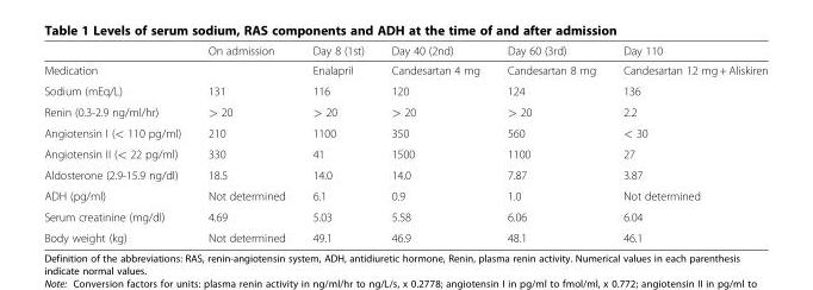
<table><thead><tr><td></td><td>On admission</td><td>Day 8 (1st)</td><td>Day 40 (2nd)</td><td>Day 60 (3rd)</td><td>Day 110</td></tr></thead><tbody><tr><td>Medication</td><td></td><td>Enalapril</td><td>Candesartan 4 mg</td><td>Candesartan 8 mg</td><td>Candesartan 12 mg + Aliskiren</td></tr><tr><td>Sodium (mEq/L)</td><td>131</td><td>116</td><td>120</td><td>124</td><td>136</td></tr><tr><td>Renin (0.3-2.9 ng/ml/hr)</td><td>&gt; 20</td><td>&gt; 20</td><td>&gt; 20</td><td>&gt; 20</td><td>2.2</td></tr><tr><td>Angiotensin I (&lt; 110 pg/ml)</td><td>210</td><td>1100</td><td>350</td><td>560</td><td>&lt; 30</td></tr><tr><td>Angiotensin II (&lt; 22 pg/ml)</td><td>330</td><td>41</td><td>1500</td><td>1100</td><td>27</td></tr><tr><td>Aldosterone (2.9-15.9 ng/dl)</td><td>18.5</td><td>14.0</td><td>14.0</td><td>7.87</td><td>3.87</td></tr><tr><td>ADH (pg/ml)</td><td>Not determined</td><td>6.1</td><td>0.9</td><td>1.0</td><td>Not determined</td></tr><tr><td>Serum creatinine (mg/dl)</td><td>4.69</td><td>5.03</td><td>5.58</td><td>6.06</td><td>6.04</td></tr><tr><td>Body weight (kg)</td><td>Not determined</td><td>49.1</td><td>46.9</td><td>48.1</td><td>46.1</td></tr></tbody></table>